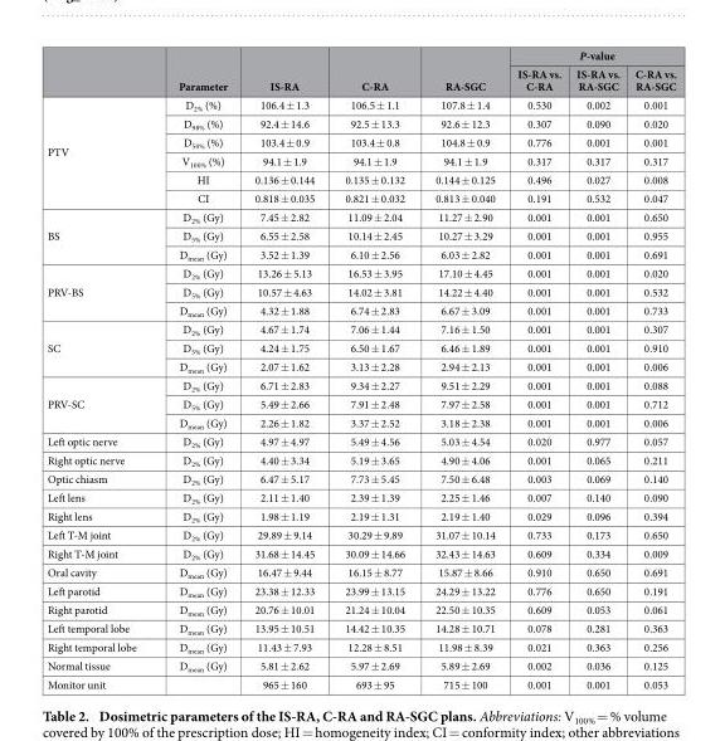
<table><thead><tr><td rowspan="2"></td><td rowspan="2">Parameter</td><td rowspan="2">IS-RA</td><td rowspan="2">C-RA</td><td rowspan="2">RA-SGC</td><td colspan="3">P-value</td></tr><tr><td>IS-RA vs. C-RA</td><td>IS-RA vs. RA-SGC</td><td>C-RA vs. RA-SGC</td></tr></thead><tbody><tr><td rowspan="6">PTV</td><td>D<sub>2%</sub> (%)</td><td>106.4 ± 1.3</td><td>106.5 ± 1.1</td><td>107.8 ± 1.4</td><td>0.530</td><td>0.002</td><td>0.001</td></tr><tr><td>D<sub>98%</sub> (%)</td><td>92.4 ± 14.6</td><td>92.5 ± 13.3</td><td>92.6 ± 12.3</td><td>0.307</td><td>0.090</td><td>0.020</td></tr><tr><td>D<sub>50%</sub> (%)</td><td>103.4 ± 0.9</td><td>103.4 ± 0.8</td><td>104.8 ± 0.9</td><td>0.776</td><td>0.001</td><td>0.001</td></tr><tr><td>V<sub>100%</sub> (%)</td><td>94.1 ± 1.9</td><td>94.1 ± 1.9</td><td>94.1 ± 1.9</td><td>0.317</td><td>0.317</td><td>0.317</td></tr><tr><td>HI</td><td>0.136 ± 0.144</td><td>0.135 ± 0.132</td><td>0.144 ± 0.125</td><td>0.496</td><td>0.027</td><td>0.008</td></tr><tr><td>CI</td><td>0.818 ± 0.035</td><td>0.821 ± 0.032</td><td>0.813 ± 0.040</td><td>0.191</td><td>0.532</td><td>0.047</td></tr><tr><td rowspan="3">BS</td><td>D<sub>2%</sub> (Gy)</td><td>7.45 ± 2.82</td><td>11.09 ± 2.04</td><td>11.27 ± 2.90</td><td>0.001</td><td>0.001</td><td>0.650</td></tr><tr><td>D<sub>5%</sub> (Gy)</td><td>6.55 ± 2.58</td><td>10.14 ± 2.45</td><td>10.27 ± 3.29</td><td>0.001</td><td>0.001</td><td>0.955</td></tr><tr><td>D<sub>mean</sub> (Gy)</td><td>3.52 ± 1.39</td><td>6.10 ± 2.56</td><td>6.03 ± 2.82</td><td>0.001</td><td>0.001</td><td>0.691</td></tr><tr><td rowspan="3">PRV-BS</td><td>D<sub>2%</sub> (Gy)</td><td>13.26 ± 5.13</td><td>16.53 ± 3.95</td><td>17.10 ± 4.45</td><td>0.001</td><td>0.001</td><td>0.020</td></tr><tr><td>D<sub>5%</sub> (Gy)</td><td>10.57 ± 4.63</td><td>14.02 ± 3.81</td><td>14.22 ± 4.40</td><td>0.001</td><td>0.001</td><td>0.532</td></tr><tr><td>D<sub>mean</sub> (Gy)</td><td>4.32 ± 1.88</td><td>6.74 ± 2.83</td><td>6.67 ± 3.09</td><td>0.001</td><td>0.001</td><td>0.733</td></tr><tr><td rowspan="3">SC</td><td>D<sub>2%</sub> (Gy)</td><td>4.67 ± 1.74</td><td>7.06 ± 1.44</td><td>7.16 ± 1.50</td><td>0.001</td><td>0.001</td><td>0.307</td></tr><tr><td>D<sub>5%</sub> (Gy)</td><td>4.24 ± 1.75</td><td>6.50 ± 1.67</td><td>6.46 ± 1.89</td><td>0.001</td><td>0.001</td><td>0.910</td></tr><tr><td>D<sub>mean</sub> (Gy)</td><td>2.07 ± 1.62</td><td>3.13 ± 2.28</td><td>2.94 ± 2.13</td><td>0.001</td><td>0.001</td><td>0.006</td></tr><tr><td rowspan="3">PRV-SC</td><td>D<sub>2%</sub> (Gy)</td><td>6.71 ± 2.83</td><td>9.34 ± 2.27</td><td>9.51 ± 2.29</td><td>0.001</td><td>0.001</td><td>0.088</td></tr><tr><td>D<sub>5%</sub> (Gy)</td><td>5.49 ± 2.66</td><td>7.91 ± 2.48</td><td>7.97 ± 2.58</td><td>0.001</td><td>0.001</td><td>0.712</td></tr><tr><td>D<sub>mean</sub> (Gy)</td><td>2.26 ± 1.82</td><td>3.37 ± 2.52</td><td>3.18 ± 2.38</td><td>0.001</td><td>0.001</td><td>0.006</td></tr><tr><td>Left optic nerve</td><td>D<sub>2%</sub> (Gy)</td><td>4.97 ± 4.97</td><td>5.49 ± 4.56</td><td>5.03 ± 4.54</td><td>0.020</td><td>0.977</td><td>0.057</td></tr><tr><td>Right optic nerve</td><td>D<sub>2%</sub> (Gy)</td><td>4.40 ± 3.34</td><td>5.19 ± 3.65</td><td>4.90 ± 4.06</td><td>0.001</td><td>0.065</td><td>0.211</td></tr><tr><td>Optic chiasm</td><td>D<sub>2%</sub> (Gy)</td><td>6.47 ± 5.17</td><td>7.73 ± 5.45</td><td>7.50 ± 6.48</td><td>0.003</td><td>0.069</td><td>0.140</td></tr><tr><td>Left lens</td><td>D<sub>2%</sub> (Gy)</td><td>2.11 ± 1.40</td><td>2.39 ± 1.39</td><td>2.25 ± 1.46</td><td>0.007</td><td>0.140</td><td>0.090</td></tr><tr><td>Right lens</td><td>D<sub>2%</sub> (Gy)</td><td>1.98 ± 1.19</td><td>2.19 ± 1.31</td><td>2.19 ± 1.40</td><td>0.029</td><td>0.096</td><td>0.394</td></tr><tr><td>Left T-M joint</td><td>D<sub>2%</sub> (Gy)</td><td>29.89 ± 9.14</td><td>30.29 ± 9.89</td><td>31.07 ± 10.14</td><td>0.733</td><td>0.173</td><td>0.650</td></tr><tr><td>Right T-M joint</td><td>D<sub>2%</sub> (Gy)</td><td>31.68 ± 14.45</td><td>30.09 ± 14.66</td><td>32.43 ± 14.63</td><td>0.609</td><td>0.334</td><td>0.009</td></tr><tr><td>Oral cavity</td><td>D<sub>mean</sub> (Gy)</td><td>16.47 ± 9.44</td><td>16.15 ± 8.77</td><td>15.87 ± 8.66</td><td>0.910</td><td>0.650</td><td>0.691</td></tr><tr><td>Left parotid</td><td>D<sub>mean</sub> (Gy)</td><td>23.38 ± 12.33</td><td>23.99 ± 13.15</td><td>24.29 ± 13.22</td><td>0.776</td><td>0.650</td><td>0.191</td></tr><tr><td>Right parotid</td><td>D<sub>mean</sub> (Gy)</td><td>20.76 ± 10.01</td><td>21.24 ± 10.04</td><td>22.50 ± 10.35</td><td>0.609</td><td>0.053</td><td>0.061</td></tr><tr><td>Left temporal lobe</td><td>D<sub>mean</sub> (Gy)</td><td>13.95 ± 10.51</td><td>14.42 ± 10.35</td><td>14.28 ± 10.71</td><td>0.078</td><td>0.281</td><td>0.363</td></tr><tr><td>Right temporal lobe</td><td>D<sub>mean</sub> (Gy)</td><td>11.43 ± 7.93</td><td>12.28 ± 8.51</td><td>11.98 ± 8.39</td><td>0.021</td><td>0.363</td><td>0.256</td></tr><tr><td>Normal tissue</td><td>D<sub>mean</sub> (Gy)</td><td>5.81 ± 2.62</td><td>5.97 ± 2.69</td><td>5.89 ± 2.69</td><td>0.002</td><td>0.036</td><td>0.125</td></tr><tr><td>Monitor unit</td><td></td><td>965 ± 160</td><td>693 ± 95</td><td>715 ± 100</td><td>0.001</td><td>0.001</td><td>0.053</td></tr></tbody></table>